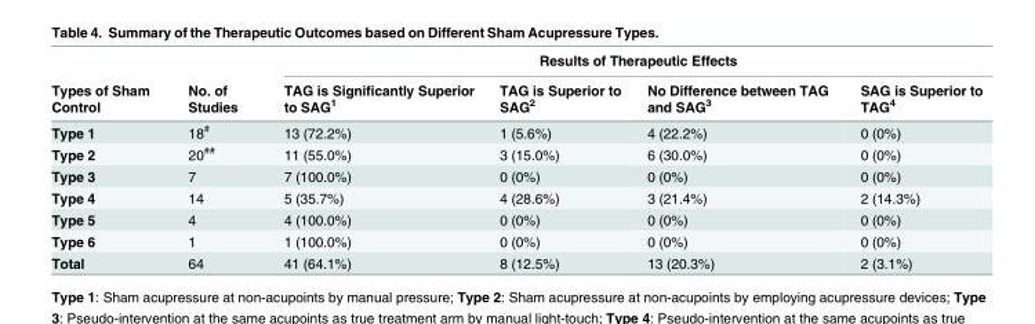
<table><thead><tr><td rowspan="2">Types of Sham Control</td><td rowspan="2">No. of Studies</td><td colspan="4">Results of Therapeutic Effects</td></tr><tr><td>TAG is Significantly Superior to SAG<sup>1</sup></td><td>TAG is Superior to SAG<sup>2</sup></td><td>No Difference between TAG and SAG<sup>3</sup></td><td>SAG is Superior to TAG<sup>4</sup></td></tr></thead><tbody><tr><td>Type 1</td><td>18<sup>#</sup></td><td>13 (72.2%)</td><td>1 (5.6%)</td><td>4 (22.2%)</td><td>0 (0%)</td></tr><tr><td>Type 2</td><td>20<sup>##</sup></td><td>11 (55.0%)</td><td>3 (15.0%)</td><td>6 (30.0%)</td><td>0 (0%)</td></tr><tr><td>Type 3</td><td>7</td><td>7 (100.0%)</td><td>0 (0%)</td><td>0 (0%)</td><td>0 (0%)</td></tr><tr><td>Type 4</td><td>14</td><td>5 (35.7%)</td><td>4 (28.6%)</td><td>3 (21.4%)</td><td>2 (14.3%)</td></tr><tr><td>Type 5</td><td>4</td><td>4 (100.0%)</td><td>0 (0%)</td><td>0 (0%)</td><td>0 (0%)</td></tr><tr><td>Type 6</td><td>1</td><td>1 (100.0%)</td><td>0 (0%)</td><td>0 (0%)</td><td>0 (0%)</td></tr><tr><td>Total</td><td>64</td><td>41 (64.1%)</td><td>8 (12.5%)</td><td>13 (20.3%)</td><td>2 (3.1%)</td></tr></tbody></table>